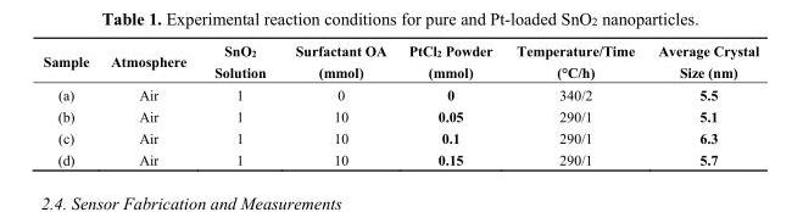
<table><thead><tr><td>Sample</td><td>Atmosphere</td><td>SnO<sub>2</sub> Solution</td><td>Surfactant OA (mmol)</td><td>PtCl<sub>2</sub> Powder (mmol)</td><td>Temperature/Time (°C/h)</td><td>Average Crystal Size (nm)</td></tr></thead><tbody><tr><td>(a)</td><td>Air</td><td>1</td><td>0</td><td>0</td><td>340/2</td><td>5.5</td></tr><tr><td>(b)</td><td>Air</td><td>1</td><td>10</td><td>0.05</td><td>290/1</td><td>5.1</td></tr><tr><td>(c)</td><td>Air</td><td>1</td><td>10</td><td>0.1</td><td>290/1</td><td>6.3</td></tr><tr><td>(d)</td><td>Air</td><td>1</td><td>10</td><td>0.15</td><td>290/1</td><td>5.7</td></tr></tbody></table>